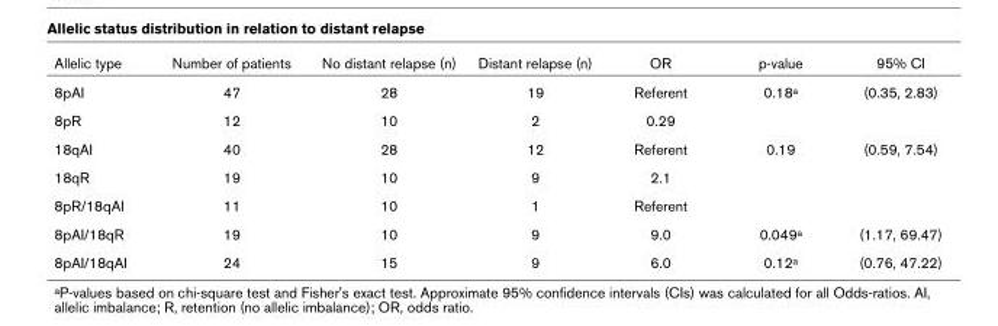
<table><thead><tr><td>Allelic type</td><td>Number of patients</td><td>No distant relapse (n)</td><td>Distant relapse (n)</td><td>OR</td><td>p-value</td><td>95% CI</td></tr></thead><tbody><tr><td>8pAI</td><td>47</td><td>28</td><td>19</td><td>Referent</td><td>0.18a</td><td>(0.35, 2.83)</td></tr><tr><td>8pR</td><td>12</td><td>10</td><td>2</td><td>0.29</td><td></td><td></td></tr><tr><td>18qAI</td><td>40</td><td>28</td><td>12</td><td>Referent</td><td>0.19</td><td>(0.59, 7.54)</td></tr><tr><td>18qR</td><td>19</td><td>10</td><td>9</td><td>2.1</td><td></td><td></td></tr><tr><td>8pR/18qAI</td><td>11</td><td>10</td><td>1</td><td>Referent</td><td></td><td></td></tr><tr><td>8pAI/18qR</td><td>19</td><td>10</td><td>9</td><td>9.0</td><td>0.049a</td><td>(1.17, 69.47)</td></tr><tr><td>8pAI/18qAI</td><td>24</td><td>15</td><td>9</td><td>6.0</td><td>0.12a</td><td>(0.76, 47.22)</td></tr></tbody></table>